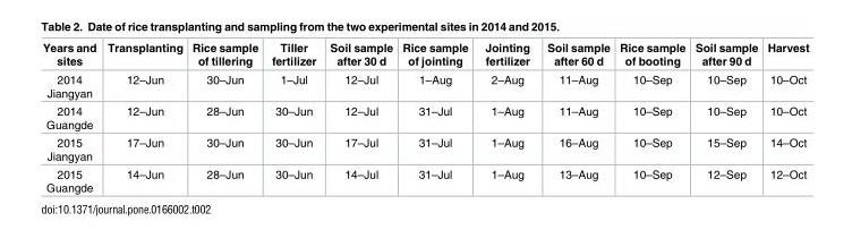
<table><thead><tr><td>Years and sites</td><td>Transplanting</td><td>Rice sample of tillering</td><td>Tiller fertilizer</td><td>Soil sample after 30 d</td><td>Rice sample of jointing</td><td>Jointing fertilizer</td><td>Soil sample after 60 d</td><td>Rice sample of booting</td><td>Soil sample after 90 d</td><td>Harvest</td></tr></thead><tbody><tr><td>2014 Jiangyan</td><td>12–Jun</td><td>30–Jun</td><td>1–Jul</td><td>12–Jul</td><td>1–Aug</td><td>2–Aug</td><td>11–Aug</td><td>10–Sep</td><td>10–Sep</td><td>10–Oct</td></tr><tr><td>2014 Guangde</td><td>12–Jun</td><td>28–Jun</td><td>30–Jun</td><td>12–Jul</td><td>31–Jul</td><td>1–Aug</td><td>11–Aug</td><td>10–Sep</td><td>10–Sep</td><td>10–Oct</td></tr><tr><td>2015 Jiangyan</td><td>17–Jun</td><td>30–Jun</td><td>30–Jun</td><td>17–Jul</td><td>31–Jul</td><td>1–Aug</td><td>16–Aug</td><td>10–Sep</td><td>15–Sep</td><td>14–Oct</td></tr><tr><td>2015 Guangde</td><td>14–Jun</td><td>28–Jun</td><td>30–Jun</td><td>14–Jul</td><td>31–Jul</td><td>1–Aug</td><td>13–Aug</td><td>10–Sep</td><td>12–Sep</td><td>12–Oct</td></tr></tbody></table>